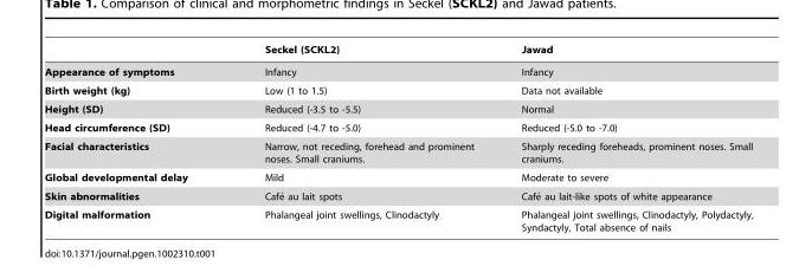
<table><thead><tr><td></td><td>Seckel (SCKL2)</td><td>Jawad</td></tr></thead><tbody><tr><td>Appearance of symptoms</td><td>Infancy</td><td>Infancy</td></tr><tr><td>Birth weight (kg)</td><td>Low (1 to 1.5)</td><td>Data not available</td></tr><tr><td>Height (SD)</td><td>Reduced (-3.5 to -5.5)</td><td>Normal</td></tr><tr><td>Head circumference (SD)</td><td>Reduced (-4.7 to -5.0)</td><td>Reduced (-5.0 to -7.0)</td></tr><tr><td>Facial characteristics</td><td>Narrow, not receding, forehead and prominent noses. Small craniums.</td><td>Sharply receding foreheads, prominent noses. Small craniums.</td></tr><tr><td>Global developmental delay</td><td>Mild</td><td>Moderate to severe</td></tr><tr><td>Skin abnormalities</td><td>Cafe´ au lait spots</td><td>Cafe´ au lait-like spots of white appearance</td></tr><tr><td>Digital malformation</td><td>Phalangeal joint swellings, Clinodactyly</td><td>Phalangeal joint swellings, Clinodactyly, Polydactyly, Syndactyly, Total absence of nails</td></tr></tbody></table>